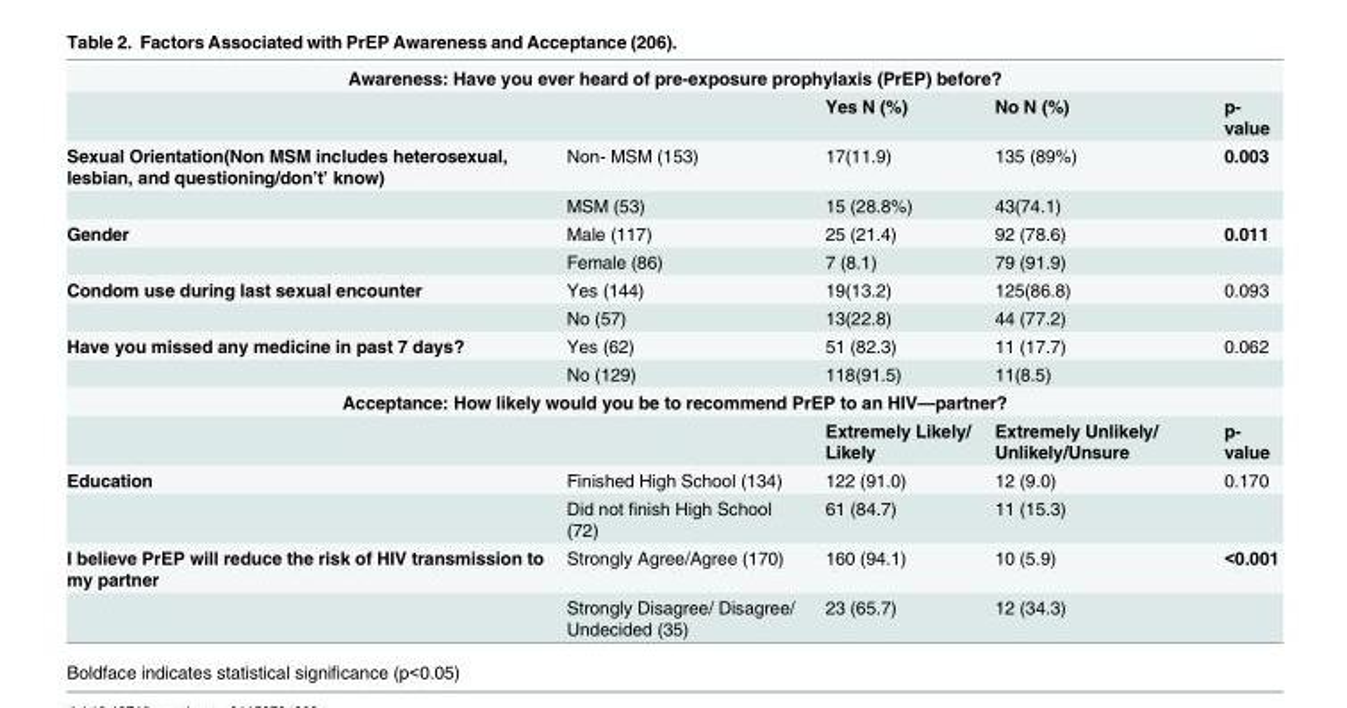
<table><tbody><tr><td colspan="5">Awareness: Have you ever heard of pre-exposure prophylaxis (PrEP) before?</td></tr><tr><td></td><td></td><td>Yes N (%)</td><td>No N (%)</td><td>p- value</td></tr><tr><td rowspan="2">Sexual Orientation(Non MSM includes heterosexual, lesbian, and questioning/don’t’ know)</td><td>Non- MSM (153)</td><td>17(11.9)</td><td>135 (89%)</td><td>0.003</td></tr><tr><td>MSM (53)</td><td>15 (28.8%)</td><td>43(74.1)</td><td></td></tr><tr><td rowspan="2">Gender</td><td>Male (117)</td><td>25 (21.4)</td><td>92 (78.6)</td><td>0.011</td></tr><tr><td>Female (86)</td><td>7 (8.1)</td><td>79 (91.9)</td><td></td></tr><tr><td rowspan="2">Condom use during last sexual encounter</td><td>Yes (144)</td><td>19(13.2)</td><td>125(86.8)</td><td>0.093</td></tr><tr><td>No (57)</td><td>13(22.8)</td><td>44 (77.2)</td><td></td></tr><tr><td rowspan="2">Have you missed any medicine in past 7 days?</td><td>Yes (62)</td><td>51 (82.3)</td><td>11 (17.7)</td><td>0.062</td></tr><tr><td>No (129)</td><td>118(91.5)</td><td>11(8.5)</td><td></td></tr><tr><td colspan="5">Acceptance: How likely would you be to recommend PrEP to an HIV—partner?</td></tr><tr><td></td><td></td><td>Extremely Likely/ Likely</td><td>Extremely Unlikely/ Unlikely/Unsure</td><td>p- value</td></tr><tr><td rowspan="2">Education</td><td>Finished High School (134)</td><td>122 (91.0)</td><td>12 (9.0)</td><td>0.170</td></tr><tr><td>Did not finish High School (72)</td><td>61 (84.7)</td><td>11 (15.3)</td><td></td></tr><tr><td rowspan="2">I believe PrEP will reduce the risk of HIV transmission to my partner</td><td>Strongly Agree/Agree (170)</td><td>160 (94.1)</td><td>10 (5.9)</td><td>&lt;0.001</td></tr><tr><td>Strongly Disagree/ Disagree/ Undecided (35)</td><td>23 (65.7)</td><td>12 (34.3)</td><td></td></tr></tbody></table>